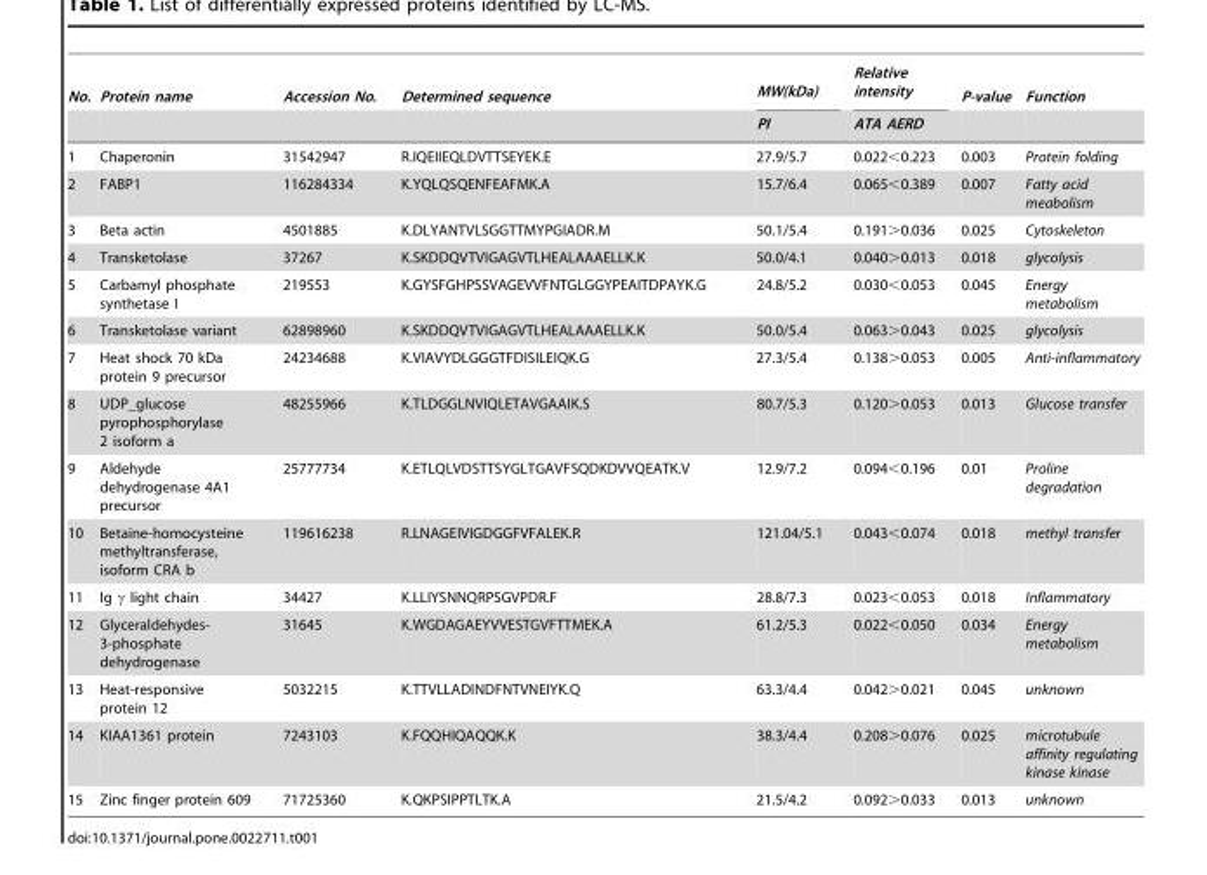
<table><thead><tr><td rowspan="2">No.</td><td rowspan="2">Protein name</td><td rowspan="2">Accession No.</td><td rowspan="2">Determined sequence</td><td rowspan="2">MW(kDa) PI</td><td rowspan="2">Relative intensity ATA AERD</td><td rowspan="2">P-value</td><td rowspan="2">Function</td></tr><tr></tr></thead><tbody><tr><td>1</td><td>Chaperonin</td><td>31542947</td><td>R.IQEIIEQLDVTTSEYEK.E</td><td>27.9/5.7</td><td>0.022&lt;0.223</td><td>0.003</td><td>Protein folding</td></tr><tr><td>2</td><td>FABP1</td><td>116284334</td><td>K.YQLQSQENFEAFMK.A</td><td>15.7/6.4</td><td>0.065&lt;0.389</td><td>0.007</td><td>Fatty acid meabolism</td></tr><tr><td>3</td><td>Beta actin</td><td>4501885</td><td>K.DLYANTVLSGGTTMYPGIADR.M</td><td>50.1/5.4</td><td>0.191&gt;0.036</td><td>0.025</td><td>Cytoskeleton</td></tr><tr><td>4</td><td>Transketolase</td><td>37267</td><td>K.SKDDQVTVIGAGVTLHEALAAAELLK.K</td><td>50.0/4.1</td><td>0.040&gt;0.013</td><td>0.018</td><td>glycolysis</td></tr><tr><td>5</td><td>Carbamyl phosphate synthetase I</td><td>219553</td><td>K.GYSFGHPSSVAGEVVFNTGLGGYPEAITDPAYK.G</td><td>24.8/5.2</td><td>0.030&lt;0.053</td><td>0.045</td><td>Energy metabolism</td></tr><tr><td>6</td><td>Transketolase variant</td><td>62898960</td><td>K.SKDDQVTVIGAGVTLHEALAAAELLK.K</td><td>50.0/5.4</td><td>0.063&gt;0.043</td><td>0.025</td><td>glycolysis</td></tr><tr><td>7</td><td>Heat shock 70 kDa protein 9 precursor</td><td>24234688</td><td>K.VIAVYDLGGGTFDISILEIQK.G</td><td>27.3/5.4</td><td>0.138&gt;0.053</td><td>0.005</td><td>Anti-inflammatory</td></tr><tr><td>8</td><td>UDP_glucose pyrophosphorylase 2 isoform a</td><td>48255966</td><td>K.TLDGGLNVIQLETAVGAAIK.S</td><td>80.7/5.3</td><td>0.120&gt;0.053</td><td>0.013</td><td>Glucose transfer</td></tr><tr><td>9</td><td>Aldehyde dehydrogenase 4A1 precursor</td><td>25777734</td><td>K.ETLQLVDSTTSYGLTGAVFSQDKDVVQEATK.V</td><td>12.9/7.2</td><td>0.094&lt;0.196</td><td>0.01</td><td>Proline degradation</td></tr><tr><td>10</td><td>Betaine-homocysteine methyltransferase, isoform CRA b</td><td>119616238</td><td>R.LNAGEIVIGDGGFVFALEK.R</td><td>121.04/5.1</td><td>0.043&lt;0.074</td><td>0.018</td><td>methyl transfer</td></tr><tr><td>11</td><td>Ig γ light chain</td><td>34427</td><td>K.LLIYSNNQRPSGVPDR.F</td><td>28.8/7.3</td><td>0.023&lt;0.053</td><td>0.018</td><td>Inflammatory</td></tr><tr><td>12</td><td>Glyceraldehydes- 3-phosphate dehydrogenase</td><td>31645</td><td>K.WGDAGAEYVVESTGVFTTMEK.A</td><td>61.2/5.3</td><td>0.022&lt;0.050</td><td>0.034</td><td>Energy metabolism</td></tr><tr><td>13</td><td>Heat-responsive protein 12</td><td>5032215</td><td>K.TTVLLADINDFNTVNEIYK.Q</td><td>63.3/4.4</td><td>0.042&gt;0.021</td><td>0.045</td><td>unknown</td></tr><tr><td>14</td><td>KIAA1361 protein</td><td>7243103</td><td>K.FQQHIQAQQK.K</td><td>38.3/4.4</td><td>0.208&gt;0.076</td><td>0.025</td><td>microtubule affinity regulating kinase kinase</td></tr><tr><td>15</td><td>Zinc finger protein 609</td><td>71725360</td><td>K.QKPSIPPTLTK.A</td><td>21.5/4.2</td><td>0.092&gt;0.033</td><td>0.013</td><td>unknown</td></tr></tbody></table>